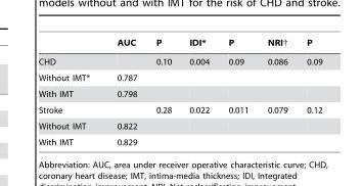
<table><thead><tr><td></td><td>AUC</td><td>P</td><td>IDI*</td><td>P</td><td>NRI†</td><td>P</td></tr></thead><tbody><tr><td>CHD</td><td></td><td>0.10</td><td>0.004</td><td>0.09</td><td>0.086</td><td>0.09</td></tr><tr><td>Without IMT*</td><td>0.787</td><td></td><td></td><td></td><td></td><td></td></tr><tr><td>With IMT</td><td>0.798</td><td></td><td></td><td></td><td></td><td></td></tr><tr><td>Stroke</td><td></td><td>0.28</td><td>0.022</td><td>0.011</td><td>0.079</td><td>0.12</td></tr><tr><td>Without IMT</td><td>0.822</td><td></td><td></td><td></td><td></td><td></td></tr><tr><td>With IMT</td><td>0.829</td><td></td><td></td><td></td><td></td><td></td></tr></tbody></table>